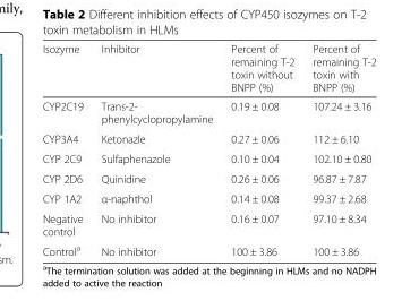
<table><thead><tr><td>Isozyme</td><td>Inhibitor</td><td>Percent of remaining T-2 toxin without BNPP (%)</td><td>Percent of remaining T-2 toxin with BNPP (%)</td></tr></thead><tbody><tr><td>CYP2C19</td><td>Trans-2- phenylcyclopropylamine</td><td>0.19 ± 0.08</td><td>107.24 ± 3.16</td></tr><tr><td>CYP3A4</td><td>Ketonazle</td><td>0.27 ± 0.06</td><td>112 ± 6.10</td></tr><tr><td>CYP 2C9</td><td>Sulfaphenazole</td><td>0.10 ± 0.04</td><td>102.10 ± 0.80</td></tr><tr><td>CYP 2D6</td><td>Quinidine</td><td>0.26 ± 0.06</td><td>96.87 ± 7.87</td></tr><tr><td>CYP 1A2</td><td>α-naphthol</td><td>0.14 ± 0.08</td><td>99.37 ± 2.68</td></tr><tr><td>Negative control</td><td>No inhibitor</td><td>0.16 ± 0.07</td><td>97.10 ± 8.34</td></tr><tr><td>Control<sup>a</sup></td><td>No inhibitor</td><td>100 ± 3.86</td><td>100 ± 3.86</td></tr></tbody></table>